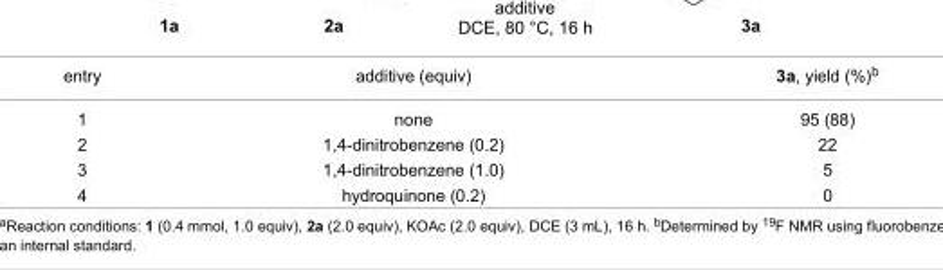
<table><tbody><tr><td>entry</td><td>additive (equiv)</td><td>3a, yield (%)<sup>b</sup></td></tr><tr><td>1</td><td>none</td><td>95 (88)</td></tr><tr><td>2</td><td>1,4-dinitrobenzene (0.2)</td><td>22</td></tr><tr><td>3</td><td>1,4-dinitrobenzene (1.0)</td><td>5</td></tr><tr><td>4</td><td>hydroquinone (0.2)</td><td>0</td></tr></tbody></table>